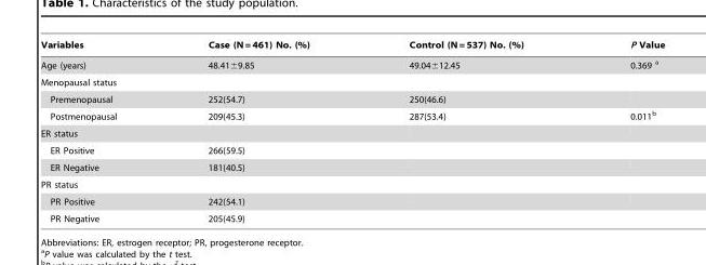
<table><thead><tr><td>Variables</td><td>Case (N = 461) No. (%)</td><td>Control (N = 537) No. (%)</td><td>P Value</td></tr></thead><tbody><tr><td>Age (years)</td><td>48.41±9.85</td><td>49.04±12.45</td><td>0.369 a</td></tr><tr><td colspan="4">Menopausal status</td></tr><tr><td>Premenopausal</td><td>252(54.7)</td><td>250(46.6)</td><td></td></tr><tr><td>Postmenopausal</td><td>209(45.3)</td><td>287(53.4)</td><td>0.011<sup>b</sup></td></tr><tr><td colspan="4">ER status</td></tr><tr><td>ER Positive</td><td>266(59.5)</td><td></td><td></td></tr><tr><td>ER Negative</td><td>181(40.5)</td><td></td><td></td></tr><tr><td colspan="4">PR status</td></tr><tr><td>PR Positive</td><td>242(54.1)</td><td></td><td></td></tr><tr><td>PR Negative</td><td>205(45.9)</td><td></td><td></td></tr></tbody></table>